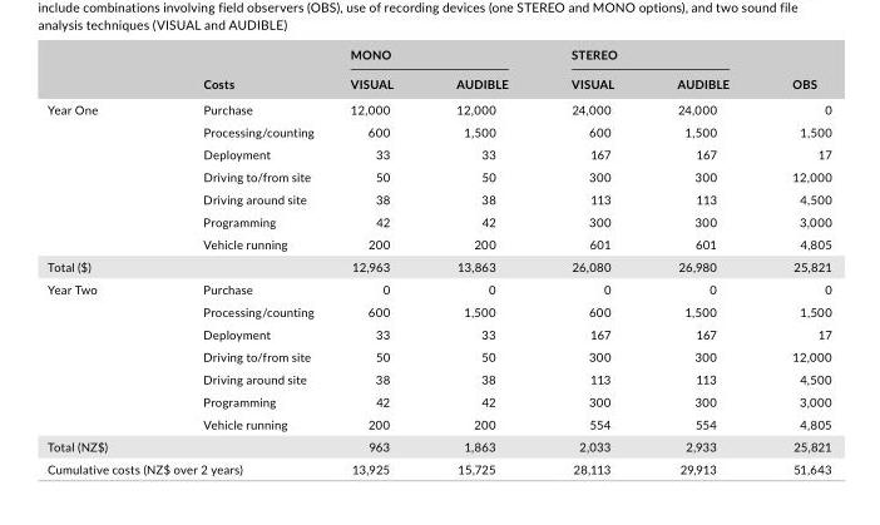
<table><thead><tr><td rowspan="2"></td><td rowspan="2">Costs</td><td colspan="2">MONO</td><td colspan="2">STEREO</td><td rowspan="2">OBS</td></tr><tr><td>VISUAL</td><td>AUDIBLE</td><td>VISUAL</td><td>AUDIBLE</td></tr></thead><tbody><tr><td rowspan="7">Year One</td><td>Purchase</td><td>12,000</td><td>12,000</td><td>24,000</td><td>24,000</td><td>0</td></tr><tr><td>Processing/counting</td><td>600</td><td>1,500</td><td>600</td><td>1,500</td><td>1,500</td></tr><tr><td>Deployment</td><td>33</td><td>33</td><td>167</td><td>167</td><td>17</td></tr><tr><td>Driving to/from site</td><td>50</td><td>50</td><td>300</td><td>300</td><td>12,000</td></tr><tr><td>Driving around site</td><td>38</td><td>38</td><td>113</td><td>113</td><td>4,500</td></tr><tr><td>Programming</td><td>42</td><td>42</td><td>300</td><td>300</td><td>3,000</td></tr><tr><td>Vehicle running</td><td>200</td><td>200</td><td>601</td><td>601</td><td>4,805</td></tr><tr><td colspan="2">Total ($)</td><td>12,963</td><td>13,863</td><td>26,080</td><td>26,980</td><td>25,821</td></tr><tr><td rowspan="7">Year Two</td><td>Purchase</td><td>0</td><td>0</td><td>0</td><td>0</td><td>0</td></tr><tr><td>Processing/counting</td><td>600</td><td>1,500</td><td>600</td><td>1,500</td><td>1,500</td></tr><tr><td>Deployment</td><td>33</td><td>33</td><td>167</td><td>167</td><td>17</td></tr><tr><td>Driving to/from site</td><td>50</td><td>50</td><td>300</td><td>300</td><td>12,000</td></tr><tr><td>Driving around site</td><td>38</td><td>38</td><td>113</td><td>113</td><td>4,500</td></tr><tr><td>Programming</td><td>42</td><td>42</td><td>300</td><td>300</td><td>3,000</td></tr><tr><td>Vehicle running</td><td>200</td><td>200</td><td>554</td><td>554</td><td>4,805</td></tr><tr><td colspan="2">Total (NZ$)</td><td>963</td><td>1,863</td><td>2,033</td><td>2,933</td><td>25,821</td></tr><tr><td colspan="2">Cumulative costs (NZ$ over 2 years)</td><td>13,925</td><td>15,725</td><td>28,113</td><td>29,913</td><td>51,643</td></tr></tbody></table>